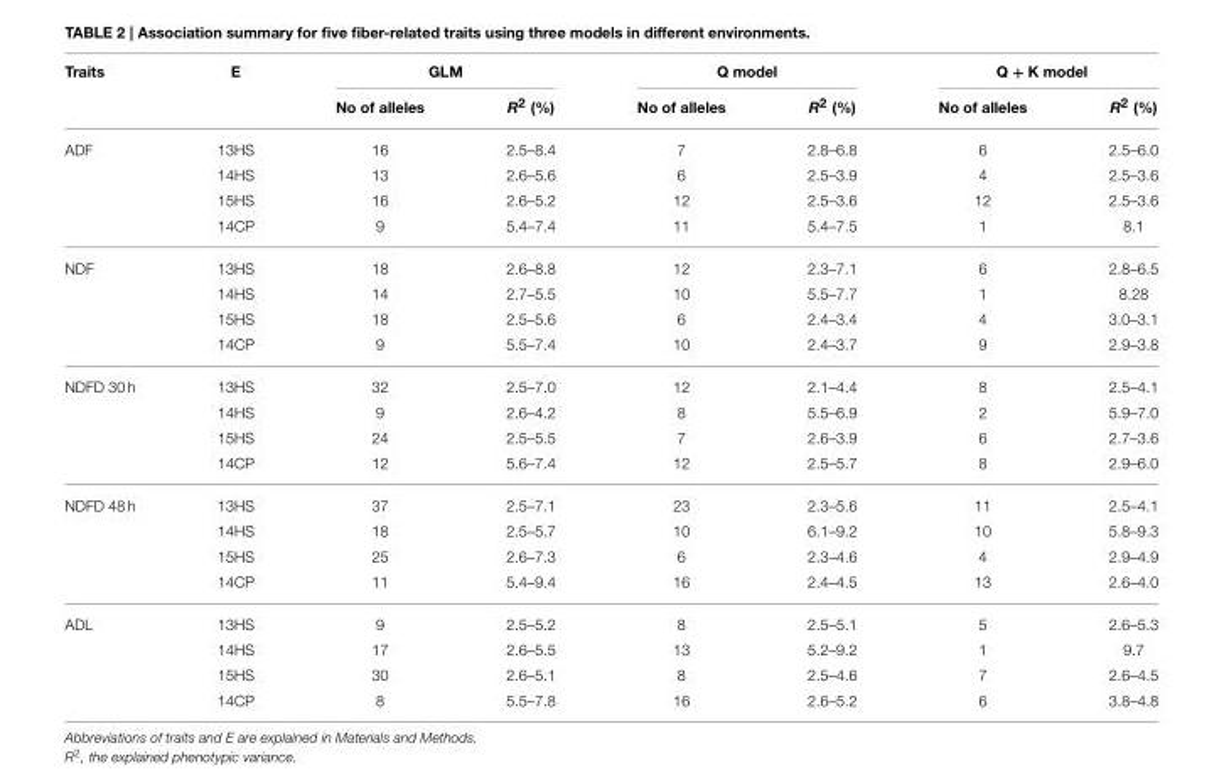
<table><thead><tr><td rowspan="2">Traits</td><td rowspan="2">E</td><td colspan="2">GLM</td><td colspan="2">Q model</td><td colspan="2">Q + K model</td></tr><tr><td>No of alleles</td><td>R<sup>2</sup> (%)</td><td>No of alleles</td><td>R<sup>2</sup> (%)</td><td>No of alleles</td><td>R<sup>2</sup> (%)</td></tr></thead><tbody><tr><td rowspan="4">ADF</td><td>13HS</td><td>16</td><td>2.5–8.4</td><td>7</td><td>2.8–6.8</td><td>6</td><td>2.5–6.0</td></tr><tr><td>14HS</td><td>13</td><td>2.6–5.6</td><td>6</td><td>2.5–3.9</td><td>4</td><td>2.5–3.6</td></tr><tr><td>15HS</td><td>16</td><td>2.6–5.2</td><td>12</td><td>2.5–3.6</td><td>12</td><td>2.5–3.6</td></tr><tr><td>14CP</td><td>9</td><td>5.4–7.4</td><td>11</td><td>5.4–7.5</td><td>1</td><td>8.1</td></tr><tr><td rowspan="4">NDF</td><td>13HS</td><td>18</td><td>2.6–8.8</td><td>12</td><td>2.3–7.1</td><td>6</td><td>2.8–6.5</td></tr><tr><td>14HS</td><td>14</td><td>2.7–5.5</td><td>10</td><td>5.5–7.7</td><td>1</td><td>8.28</td></tr><tr><td>15HS</td><td>18</td><td>2.5–5.6</td><td>6</td><td>2.4–3.4</td><td>4</td><td>3.0–3.1</td></tr><tr><td>14CP</td><td>9</td><td>5.5–7.4</td><td>10</td><td>2.4–3.7</td><td>9</td><td>2.9–3.8</td></tr><tr><td rowspan="4">NDFD 30 h</td><td>13HS</td><td>32</td><td>2.5–7.0</td><td>12</td><td>2.1–4.4</td><td>8</td><td>2.5–4.1</td></tr><tr><td>14HS</td><td>9</td><td>2.6–4.2</td><td>8</td><td>5.5–6.9</td><td>2</td><td>5.9–7.0</td></tr><tr><td>15HS</td><td>24</td><td>2.5–5.5</td><td>7</td><td>2.6–3.9</td><td>6</td><td>2.7–3.6</td></tr><tr><td>14CP</td><td>12</td><td>5.6–7.4</td><td>12</td><td>2.5–5.7</td><td>8</td><td>2.9–6.0</td></tr><tr><td rowspan="4">NDFD 48 h</td><td>13HS</td><td>37</td><td>2.5–7.1</td><td>23</td><td>2.3–5.6</td><td>11</td><td>2.5–4.1</td></tr><tr><td>14HS</td><td>18</td><td>2.5–5.7</td><td>10</td><td>6.1–9.2</td><td>10</td><td>5.8–9.3</td></tr><tr><td>15HS</td><td>25</td><td>2.6–7.3</td><td>6</td><td>2.3–4.6</td><td>4</td><td>2.9–4.9</td></tr><tr><td>14CP</td><td>11</td><td>5.4–9.4</td><td>16</td><td>2.4–4.5</td><td>13</td><td>2.6–4.0</td></tr><tr><td rowspan="4">ADL</td><td>13HS</td><td>9</td><td>2.5–5.2</td><td>8</td><td>2.5–5.1</td><td>5</td><td>2.6–5.3</td></tr><tr><td>14HS</td><td>17</td><td>2.6–5.5</td><td>13</td><td>5.2–9.2</td><td>1</td><td>9.7</td></tr><tr><td>15HS</td><td>30</td><td>2.6–5.1</td><td>8</td><td>2.5–4.6</td><td>7</td><td>2.6–4.5</td></tr><tr><td>14CP</td><td>8</td><td>5.5–7.8</td><td>16</td><td>2.6–5.2</td><td>6</td><td>3.8–4.8</td></tr></tbody></table>